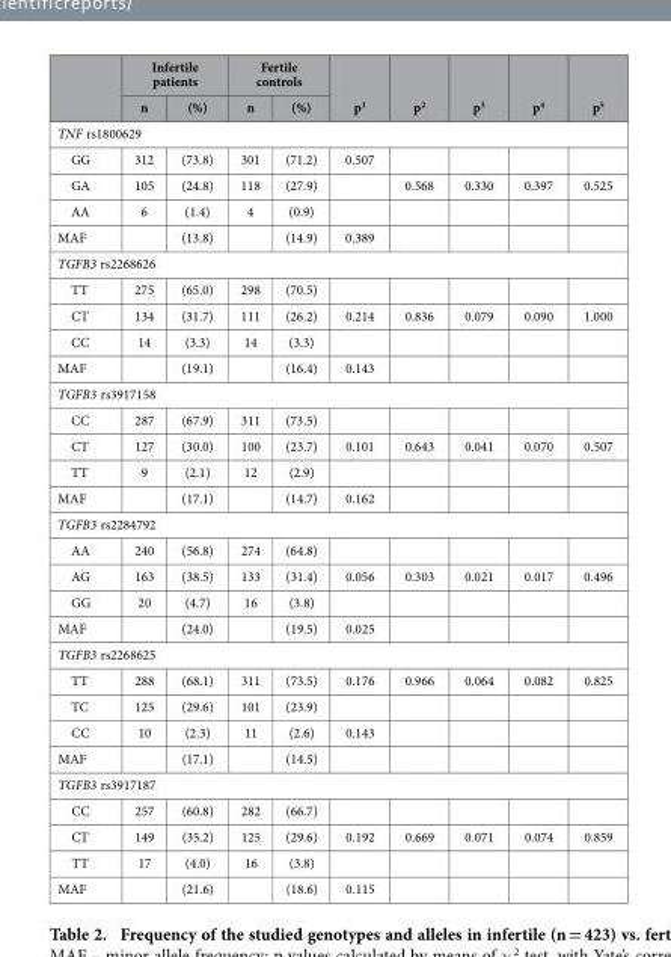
<table><thead><tr><td rowspan="2"></td><td colspan="2">Infertile patients</td><td colspan="2">Fertile controls</td><td rowspan="2">p<sup>1</sup></td><td rowspan="2">p<sup>2</sup></td><td rowspan="2">p<sup>3</sup></td><td rowspan="2">p<sup>4</sup></td><td rowspan="2">p<sup>5</sup></td></tr><tr><td>n</td><td>(%)</td><td>n</td><td>(%)</td></tr></thead><tbody><tr><td colspan="10">TNF rs1800629</td></tr><tr><td>GG</td><td>312</td><td>(73.8)</td><td>301</td><td>(71.2)</td><td>0.507</td><td></td><td></td><td></td><td></td></tr><tr><td>GA</td><td>105</td><td>(24.8)</td><td>118</td><td>(27.9)</td><td></td><td>0.568</td><td>0.330</td><td>0.397</td><td>0.525</td></tr><tr><td>AA</td><td>6</td><td>(1.4)</td><td>4</td><td>(0.9)</td><td></td><td></td><td></td><td></td><td></td></tr><tr><td>MAF</td><td></td><td>(13.8)</td><td></td><td>(14.9)</td><td>0.389</td><td></td><td></td><td></td><td></td></tr><tr><td colspan="10">TGFB3 rs2268626</td></tr><tr><td>TT</td><td>275</td><td>(65.0)</td><td>298</td><td>(70.5)</td><td></td><td></td><td></td><td></td><td></td></tr><tr><td>CT</td><td>134</td><td>(31.7)</td><td>111</td><td>(26.2)</td><td>0.214</td><td>0.836</td><td>0.079</td><td>0.090</td><td>1.000</td></tr><tr><td>CC</td><td>14</td><td>(3.3)</td><td>14</td><td>(3.3)</td><td></td><td></td><td></td><td></td><td></td></tr><tr><td>MAF</td><td></td><td>(19.1)</td><td></td><td>(16.4)</td><td>0.143</td><td></td><td></td><td></td><td></td></tr><tr><td colspan="10">TGFB3 rs3917158</td></tr><tr><td>CC</td><td>287</td><td>(67.9)</td><td>311</td><td>(73.5)</td><td></td><td></td><td></td><td></td><td></td></tr><tr><td>CT</td><td>127</td><td>(30.0)</td><td>100</td><td>(23.7)</td><td>0.101</td><td>0.643</td><td>0.041</td><td>0.070</td><td>0.507</td></tr><tr><td>TT</td><td>9</td><td>(2.1)</td><td>12</td><td>(2.9)</td><td></td><td></td><td></td><td></td><td></td></tr><tr><td>MAF</td><td></td><td>(17.1)</td><td></td><td>(14.7)</td><td>0.162</td><td></td><td></td><td></td><td></td></tr><tr><td colspan="10">TGFB3 rs2284792</td></tr><tr><td>AA</td><td>240</td><td>(56.8)</td><td>274</td><td>(64.8)</td><td></td><td></td><td></td><td></td><td></td></tr><tr><td>AG</td><td>163</td><td>(38.5)</td><td>133</td><td>(31.4)</td><td>0.056</td><td>0.303</td><td>0.021</td><td>0.017</td><td>0.496</td></tr><tr><td>GG</td><td>20</td><td>(4.7)</td><td>16</td><td>(3.8)</td><td></td><td></td><td></td><td></td><td></td></tr><tr><td>MAF</td><td></td><td>(24.0)</td><td></td><td>(19.5)</td><td>0.025</td><td></td><td></td><td></td><td></td></tr><tr><td colspan="10">TGFB3 rs2268625</td></tr><tr><td>TT</td><td>288</td><td>(68.1)</td><td>311</td><td>(73.5)</td><td>0.176</td><td>0.966</td><td>0.064</td><td>0.082</td><td>0.825</td></tr><tr><td>TC</td><td>125</td><td>(29.6)</td><td>101</td><td>(23.9)</td><td></td><td></td><td></td><td></td><td></td></tr><tr><td>CC</td><td>10</td><td>(2.3)</td><td>11</td><td>(2.6)</td><td>0.143</td><td></td><td></td><td></td><td></td></tr><tr><td>MAF</td><td></td><td>(17.1)</td><td></td><td>(14.5)</td><td></td><td></td><td></td><td></td><td></td></tr><tr><td colspan="10">TGFB3 rs3917187</td></tr><tr><td>CC</td><td>257</td><td>(60.8)</td><td>282</td><td>(66.7)</td><td></td><td></td><td></td><td></td><td></td></tr><tr><td>CT</td><td>149</td><td>(35.2)</td><td>125</td><td>(29.6)</td><td>0.192</td><td>0.669</td><td>0.071</td><td>0.074</td><td>0.859</td></tr><tr><td>TT</td><td>17</td><td>(4.0)</td><td>16</td><td>(3.8)</td><td></td><td></td><td></td><td></td><td></td></tr><tr><td>MAF</td><td></td><td>(21.6)</td><td></td><td>(18.6)</td><td>0.115</td><td></td><td></td><td></td><td></td></tr></tbody></table>